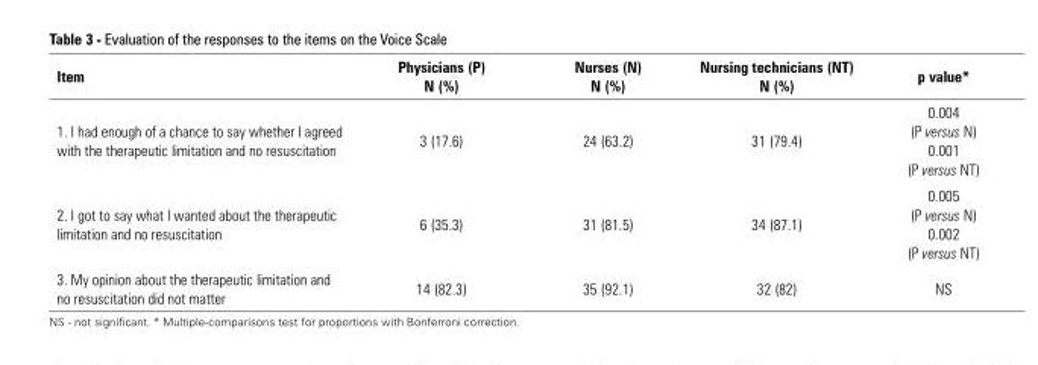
<table><thead><tr><td>Item</td><td>Physicians (P) N (%)</td><td>Nurses (N) N (%)</td><td>Nursing technicians (NT) N (%)</td><td>p value*</td></tr></thead><tbody><tr><td>1. I had enough of a chance to say whether I agreed with the therapeutic limitation and no resuscitation</td><td>3 (17.6)</td><td>24 (63.2)</td><td>31 (79.4)</td><td>0.004 (P versus N) 0.001 (P versus NT)</td></tr><tr><td>2. I got to say what I wanted about the therapeutic limitation and no resuscitation</td><td>6 (35.3)</td><td>31 (81.5)</td><td>34 (87.1)</td><td>0.005 (P versus N) 0.002 (P versus NT)</td></tr><tr><td>3. My opinion about the therapeutic limitation and no resuscitation did not matter</td><td>14 (82.3)</td><td>35 (92.1)</td><td>32 (82)</td><td>NS</td></tr></tbody></table>